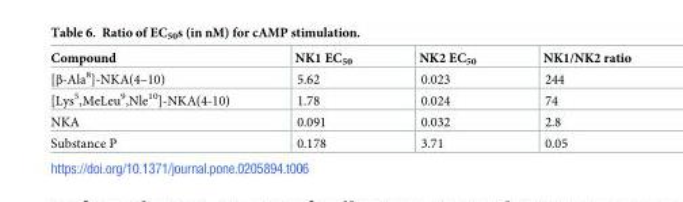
<table><thead><tr><td>Compound</td><td>NK1 EC<sub>50</sub></td><td>NK2 EC<sub>50</sub></td><td>NK1/NK2 ratio</td></tr></thead><tbody><tr><td>[β-Ala<sup>8</sup>]-NKA(4–10)</td><td>5.62</td><td>0.023</td><td>244</td></tr><tr><td>[Lys<sup>5</sup>,MeLeu<sup>9</sup>,Nle<sup>10</sup>]-NKA(4-10)</td><td>1.78</td><td>0.024</td><td>74</td></tr><tr><td>NKA</td><td>0.091</td><td>0.032</td><td>2.8</td></tr><tr><td>Substance P</td><td>0.178</td><td>3.71</td><td>0.05</td></tr></tbody></table>